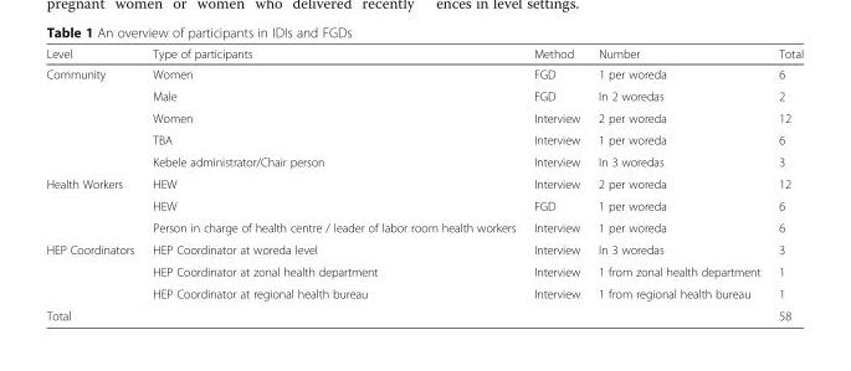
<table><thead><tr><td>Level</td><td>Type of participants</td><td>Method</td><td>Number</td><td>Total</td></tr></thead><tbody><tr><td rowspan="5">Community</td><td>Women</td><td>FGD</td><td>1 per woreda</td><td>6</td></tr><tr><td>Male</td><td>FGD</td><td>In 2 woredas</td><td>2</td></tr><tr><td>Women</td><td>Interview</td><td>2 per woreda</td><td>12</td></tr><tr><td>TBA</td><td>Interview</td><td>1 per woreda</td><td>6</td></tr><tr><td>Kebele administrator/Chair person</td><td>Interview</td><td>In 3 woredas</td><td>3</td></tr><tr><td rowspan="3">Health Workers</td><td>HEW</td><td>Interview</td><td>2 per woreda</td><td>12</td></tr><tr><td>HEW</td><td>FGD</td><td>1 per woreda</td><td>6</td></tr><tr><td>Person in charge of health centre / leader of labor room health workers</td><td>Interview</td><td>1 per woreda</td><td>6</td></tr><tr><td rowspan="3">HEP Coordinators</td><td>HEP Coordinator at woreda level</td><td>Interview</td><td>In 3 woredas</td><td>3</td></tr><tr><td>HEP Coordinator at zonal health department</td><td>Interview</td><td>1 from zonal health department</td><td>1</td></tr><tr><td>HEP Coordinator at regional health bureau</td><td>Interview</td><td>1 from regional health bureau</td><td>1</td></tr><tr><td>Total</td><td></td><td></td><td></td><td>58</td></tr></tbody></table>